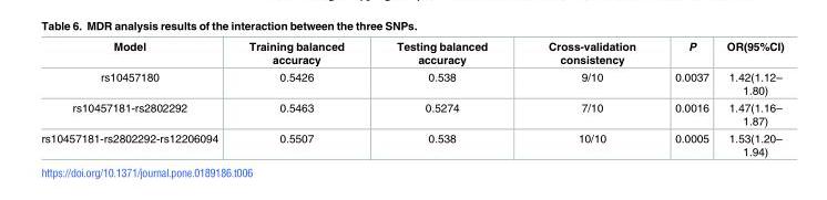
<table><thead><tr><td>Model</td><td>Training balanced accuracy</td><td>Testing balanced accuracy</td><td>Cross-validation consistency</td><td>P</td><td>OR(95%CI)</td></tr></thead><tbody><tr><td>rs10457180</td><td>0.5426</td><td>0.538</td><td>9/10</td><td>0.0037</td><td>1.42(1.12– 1.80)</td></tr><tr><td>rs10457181-rs2802292</td><td>0.5463</td><td>0.5274</td><td>7/10</td><td>0.0016</td><td>1.47(1.16– 1.87)</td></tr><tr><td>rs10457181-rs2802292-rs12206094</td><td>0.5507</td><td>0.538</td><td>10/10</td><td>0.0005</td><td>1.53(1.20– 1.94)</td></tr></tbody></table>